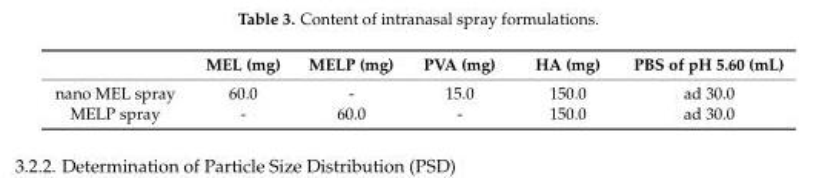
<table><thead><tr><td></td><td>MEL (mg)</td><td>MELP (mg)</td><td>PVA (mg)</td><td>HA (mg)</td><td>PBS of pH 5.60 (mL)</td></tr></thead><tbody><tr><td>nano MEL spray</td><td>60.0</td><td>-</td><td>15.0</td><td>150.0</td><td>ad 30.0</td></tr><tr><td>MELP spray</td><td>-</td><td>60.0</td><td>-</td><td>150.0</td><td>ad 30.0</td></tr></tbody></table>